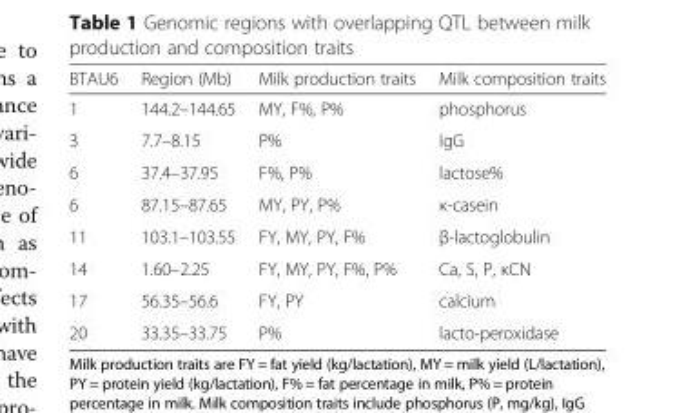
<table><thead><tr><td>BTAU6</td><td>Region (Mb)</td><td>Milk production traits</td><td>Milk composition traits</td></tr></thead><tbody><tr><td>1</td><td>144.2–144.65</td><td>MY, F%, P%</td><td>phosphorus</td></tr><tr><td>3</td><td>7.7–8.15</td><td>P%</td><td>IgG</td></tr><tr><td>6</td><td>37.4–37.95</td><td>F%, P%</td><td>lactose%</td></tr><tr><td>6</td><td>87.15–87.65</td><td>MY, PY, P%</td><td>κ-casein</td></tr><tr><td>11</td><td>103.1–103.55</td><td>FY, MY, PY, F%</td><td>β-lactoglobulin</td></tr><tr><td>14</td><td>1.60–2.25</td><td>FY, MY, PY, F%, P%</td><td>Ca, S, P, κCN</td></tr><tr><td>17</td><td>56.35–56.6</td><td>FY, PY</td><td>calcium</td></tr><tr><td>20</td><td>33.35–33.75</td><td>P%</td><td>lacto-peroxidase</td></tr></tbody></table>